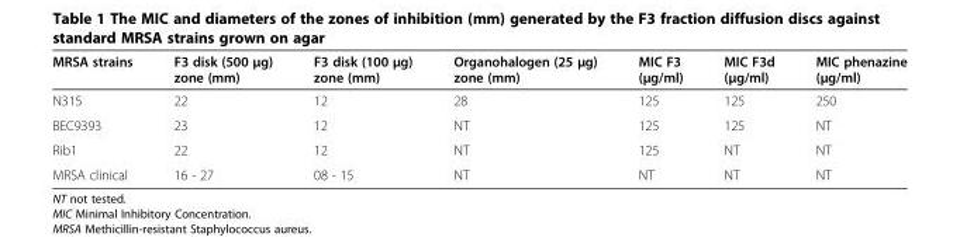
<table><thead><tr><td>MRSA strains</td><td>F3 disk (500 μg) zone (mm)</td><td>F3 disk (100 μg) zone (mm)</td><td>Organohalogen (25 μg) zone (mm)</td><td>MIC F3 (μg/ml)</td><td>MIC F3d (μg/ml)</td><td>MIC phenazine (μg/ml)</td></tr></thead><tbody><tr><td>N315</td><td>22</td><td>12</td><td>28</td><td>125</td><td>125</td><td>250</td></tr><tr><td>BEC9393</td><td>23</td><td>12</td><td>NT</td><td>125</td><td>125</td><td>NT</td></tr><tr><td>Rib1</td><td>22</td><td>12</td><td>NT</td><td>125</td><td>NT</td><td>NT</td></tr><tr><td>MRSA clinical</td><td>16 - 27</td><td>08 - 15</td><td>NT</td><td>NT</td><td>NT</td><td>NT</td></tr></tbody></table>